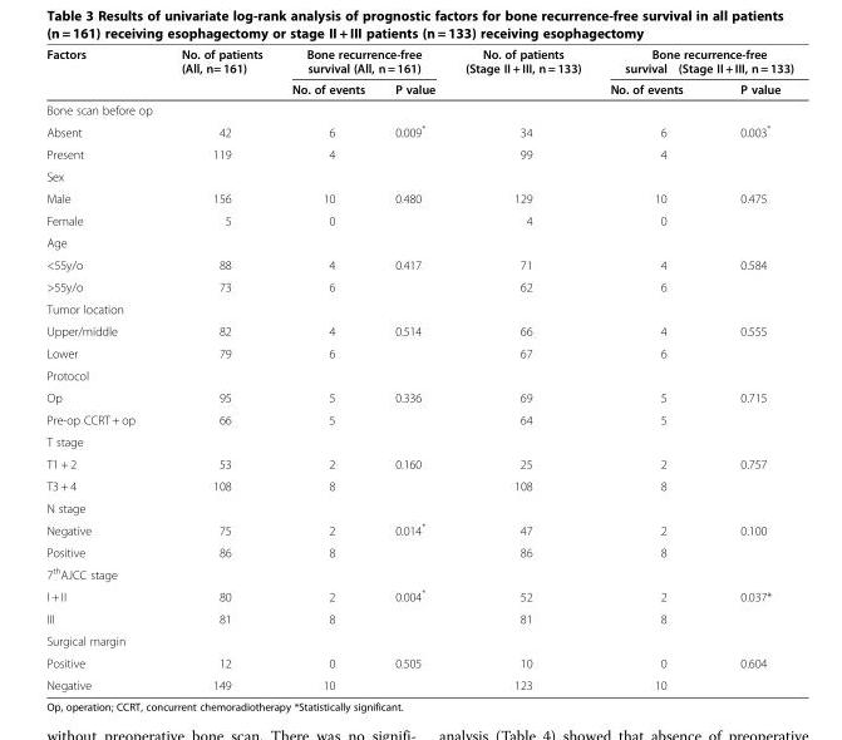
<table><thead><tr><td rowspan="2">Factors</td><td rowspan="2">No. of patients (All, n= 161)</td><td colspan="2">Bone recurrence-free survival (All, n = 161)</td><td rowspan="2">No. of patients (Stage II + III, n = 133)</td><td colspan="2">Bone recurrence-free survival (Stage II + III, n = 133)</td></tr><tr><td>No. of events</td><td>P value</td><td>No. of events</td><td>P value</td></tr></thead><tbody><tr><td colspan="7">Bone scan before op</td></tr><tr><td>Absent</td><td>42</td><td>6</td><td>0.009*</td><td>34</td><td>6</td><td>0.003*</td></tr><tr><td>Present</td><td>119</td><td>4</td><td></td><td>99</td><td>4</td><td></td></tr><tr><td colspan="7">Sex</td></tr><tr><td>Male</td><td>156</td><td>10</td><td>0.480</td><td>129</td><td>10</td><td>0.475</td></tr><tr><td>Female</td><td>5</td><td>0</td><td></td><td>4</td><td>0</td><td></td></tr><tr><td colspan="7">Age</td></tr><tr><td>&lt;55y/o</td><td>88</td><td>4</td><td>0.417</td><td>71</td><td>4</td><td>0.584</td></tr><tr><td>&gt;55y/o</td><td>73</td><td>6</td><td></td><td>62</td><td>6</td><td></td></tr><tr><td colspan="7">Tumor location</td></tr><tr><td>Upper/middle</td><td>82</td><td>4</td><td>0.514</td><td>66</td><td>4</td><td>0.555</td></tr><tr><td>Lower</td><td>79</td><td>6</td><td></td><td>67</td><td>6</td><td></td></tr><tr><td colspan="7">Protocol</td></tr><tr><td>Op</td><td>95</td><td>5</td><td>0.336</td><td>69</td><td>5</td><td>0.715</td></tr><tr><td>Pre-op CCRT + op</td><td>66</td><td>5</td><td></td><td>64</td><td>5</td><td></td></tr><tr><td colspan="7">T stage</td></tr><tr><td>T1 + 2</td><td>53</td><td>2</td><td>0.160</td><td>25</td><td>2</td><td>0.757</td></tr><tr><td>T3 + 4</td><td>108</td><td>8</td><td></td><td>108</td><td>8</td><td></td></tr><tr><td colspan="7">N stage</td></tr><tr><td>Negative</td><td>75</td><td>2</td><td>0.014*</td><td>47</td><td>2</td><td>0.100</td></tr><tr><td>Positive</td><td>86</td><td>8</td><td></td><td>86</td><td>8</td><td></td></tr><tr><td colspan="7">7<sup>th</sup>AJCC stage</td></tr><tr><td>I + II</td><td>80</td><td>2</td><td>0.004*</td><td>52</td><td>2</td><td>0.037*</td></tr><tr><td>III</td><td>81</td><td>8</td><td></td><td>81</td><td>8</td><td></td></tr><tr><td colspan="7">Surgical margin</td></tr><tr><td>Positive</td><td>12</td><td>0</td><td>0.505</td><td>10</td><td>0</td><td>0.604</td></tr><tr><td>Negative</td><td>149</td><td>10</td><td></td><td>123</td><td>10</td><td></td></tr></tbody></table>